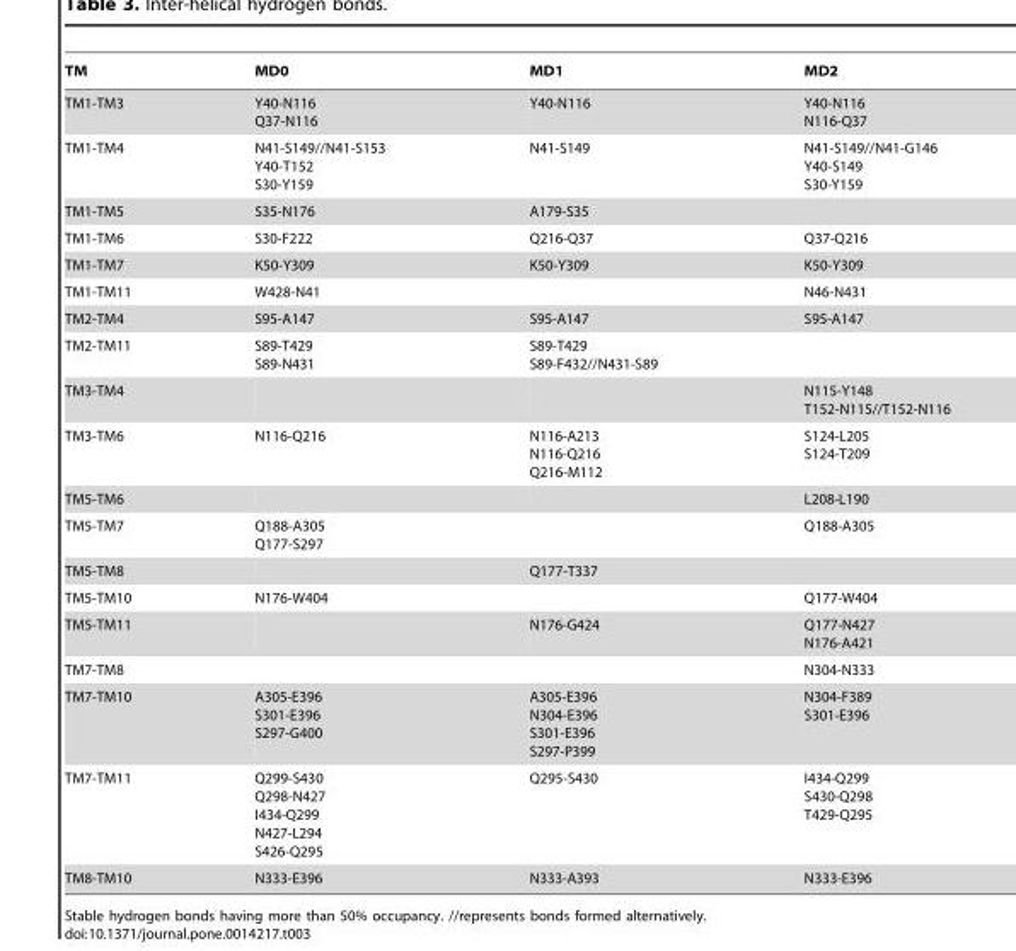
<table><thead><tr><td>TM</td><td>MD0</td><td>MD1</td><td>MD2</td></tr></thead><tbody><tr><td>TM1-TM3</td><td>Y40-N116 Q37-N116</td><td>Y40-N116</td><td>Y40-N116 N116-Q37</td></tr><tr><td>TM1-TM4</td><td>N41-S149//N41-S153 Y40-T152 S30-Y159</td><td>N41-S149</td><td>N41-S149//N41-G146 Y40-S149 S30-Y159</td></tr><tr><td>TM1-TM5</td><td>S35-N176</td><td>A179-S35</td><td></td></tr><tr><td>TM1-TM6</td><td>S30-F222</td><td>Q216-Q37</td><td>Q37-Q216</td></tr><tr><td>TM1-TM7</td><td>K50-Y309</td><td>K50-Y309</td><td>K50-Y309</td></tr><tr><td>TM1-TM11</td><td>W428-N41</td><td></td><td>N46-N431</td></tr><tr><td>TM2-TM4</td><td>S95-A147</td><td>S95-A147</td><td>S95-A147</td></tr><tr><td>TM2-TM11</td><td>S89-T429 S89-N431</td><td>S89-T429 S89-F432//N431-S89</td><td></td></tr><tr><td>TM3-TM4</td><td></td><td></td><td>N115-Y148 T152-N115//T152-N116</td></tr><tr><td>TM3-TM6</td><td>N116-Q216</td><td>N116-A213 N116-Q216 Q216-M112</td><td>S124-L205 S124-T209</td></tr><tr><td>TM5-TM6</td><td></td><td></td><td>L208-L190</td></tr><tr><td>TM5-TM7</td><td>Q188-A305 Q177-S297</td><td></td><td>Q188-A305</td></tr><tr><td>TM5-TM8</td><td></td><td>Q177-T337</td><td></td></tr><tr><td>TM5-TM10</td><td>N176-W404</td><td></td><td>Q177-W404</td></tr><tr><td>TM5-TM11</td><td></td><td>N176-G424</td><td>Q177-N427 N176-A421</td></tr><tr><td>TM7-TM8</td><td></td><td></td><td>N304-N333</td></tr><tr><td>TM7-TM10</td><td>A305-E396 S301-E396 S297-G400</td><td>A305-E396 N304-E396 S301-E396 S297-P399</td><td>N304-F389 S301-E396</td></tr><tr><td>TM7-TM11</td><td>Q299-S430 Q298-N427 I434-Q299 N427-L294 S426-Q295</td><td>Q295-S430</td><td>I434-Q299 S430-Q298 T429-Q295</td></tr><tr><td>TM8-TM10</td><td>N333-E396</td><td>N333-A393</td><td>N333-E396</td></tr></tbody></table>